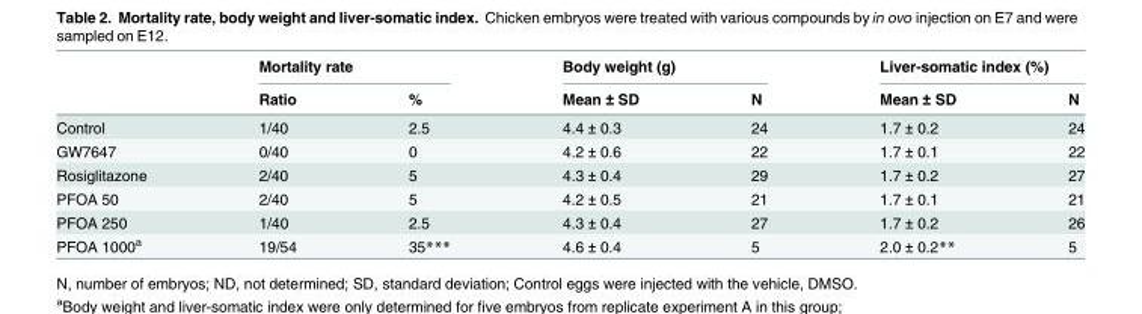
<table><thead><tr><td rowspan="2"></td><td colspan="2">Mortality rate</td><td colspan="2">Body weight (g)</td><td colspan="2">Liver-somatic index (%)</td></tr><tr><td>Ratio</td><td>%</td><td>Mean ± SD</td><td>N</td><td>Mean ± SD</td><td>N</td></tr></thead><tbody><tr><td>Control</td><td>1/40</td><td>2.5</td><td>4.4 ± 0.3</td><td>24</td><td>1.7 ± 0.2</td><td>24</td></tr><tr><td>GW7647</td><td>0/40</td><td>0</td><td>4.2 ± 0.6</td><td>22</td><td>1.7 ± 0.1</td><td>22</td></tr><tr><td>Rosiglitazone</td><td>2/40</td><td>5</td><td>4.3 ± 0.4</td><td>29</td><td>1.7 ± 0.2</td><td>27</td></tr><tr><td>PFOA 50</td><td>2/40</td><td>5</td><td>4.2 ± 0.5</td><td>21</td><td>1.7 ± 0.1</td><td>21</td></tr><tr><td>PFOA 250</td><td>1/40</td><td>2.5</td><td>4.3 ± 0.4</td><td>27</td><td>1.7 ± 0.2</td><td>26</td></tr><tr><td>PFOA 1000<sup>a</sup></td><td>19/54</td><td>35***</td><td>4.6 ± 0.4</td><td>5</td><td>2.0 ± 0.2**</td><td>5</td></tr></tbody></table>